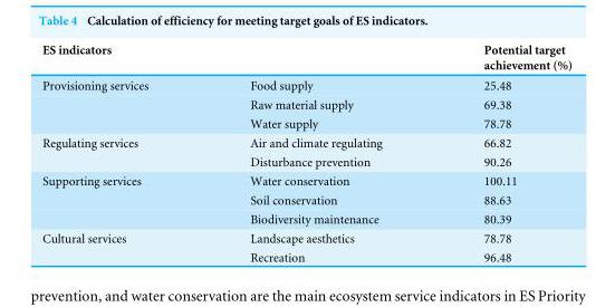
<table><thead><tr><td>ES indicators</td><td></td><td>Potential target achievement (%)</td></tr></thead><tbody><tr><td rowspan="3">Provisioning services</td><td>Food supply</td><td>25.48</td></tr><tr><td>Raw material supply</td><td>69.38</td></tr><tr><td>Water supply</td><td>78.78</td></tr><tr><td rowspan="2">Regulating services</td><td>Air and climate regulating</td><td>66.82</td></tr><tr><td>Disturbance prevention</td><td>90.26</td></tr><tr><td rowspan="3">Supporting services</td><td>Water conservation</td><td>100.11</td></tr><tr><td>Soil conservation</td><td>88.63</td></tr><tr><td>Biodiversity maintenance</td><td>80.39</td></tr><tr><td rowspan="2">Cultural services</td><td>Landscape aesthetics</td><td>78.78</td></tr><tr><td>Recreation</td><td>96.48</td></tr></tbody></table>